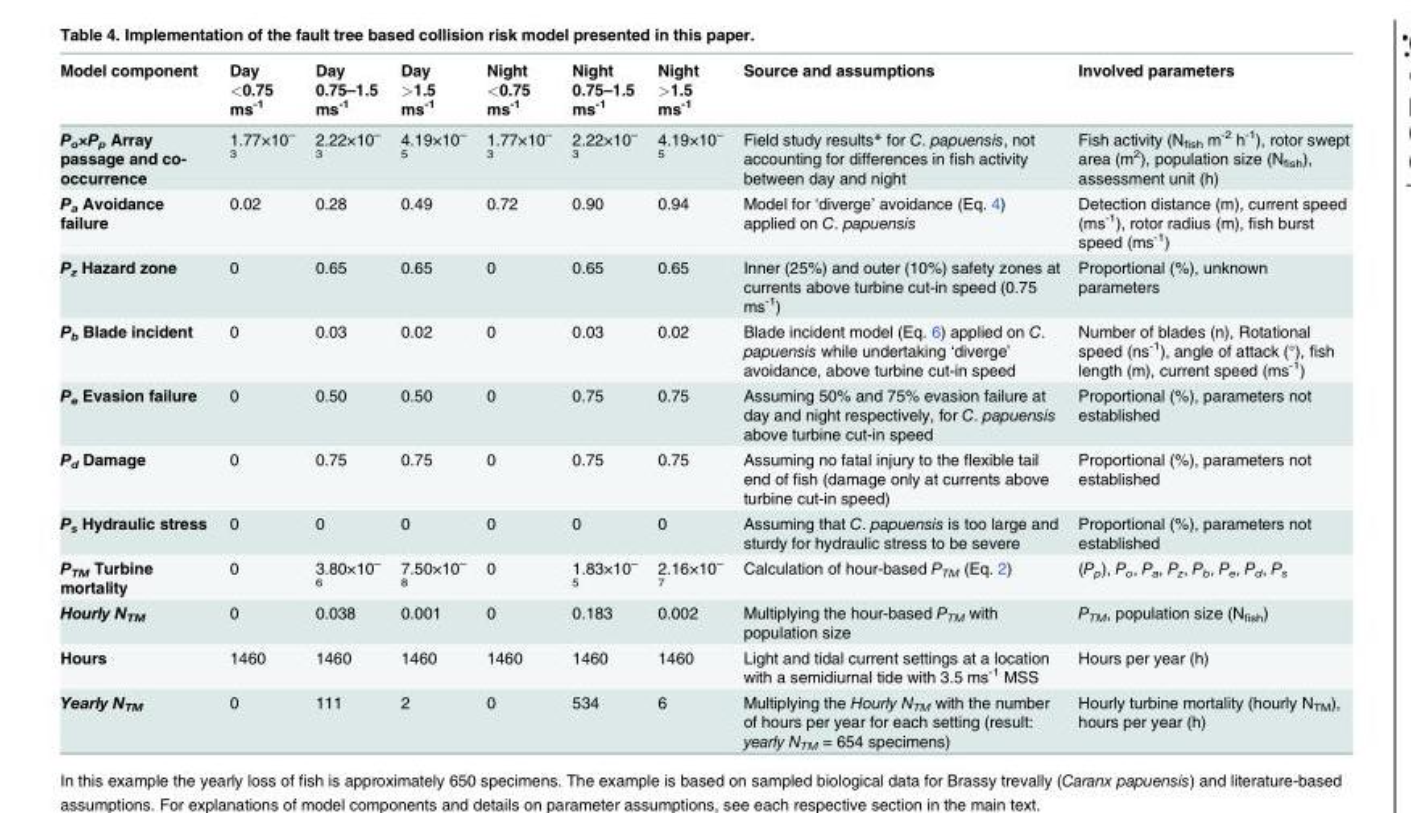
<table><thead><tr><td rowspan="2">Model component</td><td rowspan="2">Day &lt;0.75 ms<sup>-1</sup></td><td rowspan="2">Day 0.75–1.5 ms<sup>-1</sup></td><td rowspan="2">Day &gt;1.5 ms<sup>-1</sup></td><td rowspan="2">Night &lt;0.75 ms<sup>-1</sup></td><td rowspan="2">Night 0.75–1.5 ms<sup>-1</sup></td><td rowspan="2">Night &gt;1.5 ms<sup>-1</sup></td><td rowspan="2">Source and assumptions</td><td rowspan="2">Involved parameters</td></tr><tr></tr></thead><tbody><tr><td>P<sub>o</sub>×P<sub>p</sub> Array passage and co- occurrence</td><td>1.77×10<sup>– 3</sup></td><td>2.22×10<sup>– 3</sup></td><td>4.19×10<sup>– 5</sup></td><td>1.77×10<sup>– 3</sup></td><td>2.22×10<sup>– 3</sup></td><td>4.19×10<sup>– 5</sup></td><td>Field study results* for C. papuensis, not accounting for differences in fish activity between day and night</td><td>Fish activity (N<sub>fish</sub> m<sup>-2</sup> h<sup>-1</sup>), rotor swept area (m<sup>2</sup>), population size (N<sub>fish</sub>), assessment unit (h)</td></tr><tr><td>P<sub>a</sub> Avoidance failure</td><td>0.02</td><td>0.28</td><td>0.49</td><td>0.72</td><td>0.90</td><td>0.94</td><td>Model for ‘diverge’ avoidance (Eq. 4) applied on C. papuensis</td><td>Detection distance (m), current speed (ms<sup>-1</sup>), rotor radius (m), fish burst speed (ms<sup>-1</sup>)</td></tr><tr><td>P<sub>z</sub> Hazard zone</td><td>0</td><td>0.65</td><td>0.65</td><td>0</td><td>0.65</td><td>0.65</td><td>Inner (25%) and outer (10%) safety zones at currents above turbine cut-in speed (0.75 ms<sup>-1</sup>)</td><td>Proportional (%), unknown parameters</td></tr><tr><td>P<sub>b</sub> Blade incident</td><td>0</td><td>0.03</td><td>0.02</td><td>0</td><td>0.03</td><td>0.02</td><td>Blade incident model (Eq. 6) applied on C. papuensis while undertaking ‘diverge’ avoidance, above turbine cut-in speed</td><td>Number of blades (n), Rotational speed (ns<sup>-1</sup>), angle of attack (°), fish length (m), current speed (ms<sup>-1</sup>)</td></tr><tr><td>P<sub>e</sub> Evasion failure</td><td>0</td><td>0.50</td><td>0.50</td><td>0</td><td>0.75</td><td>0.75</td><td>Assuming 50% and 75% evasion failure at day and night respectively, for C. papuensis above turbine cut-in speed</td><td>Proportional (%), parameters not established</td></tr><tr><td>P<sub>d</sub> Damage</td><td>0</td><td>0.75</td><td>0.75</td><td>0</td><td>0.75</td><td>0.75</td><td>Assuming no fatal injury to the flexible tail end of fish (damage only at currents above turbine cut-in speed)</td><td>Proportional (%), parameters not established</td></tr><tr><td>P<sub>s</sub> Hydraulic stress</td><td>0</td><td>0</td><td>0</td><td>0</td><td>0</td><td>0</td><td>Assuming that C. papuensis is too large and sturdy for hydraulic stress to be severe</td><td>Proportional (%), parameters not established</td></tr><tr><td>P<sub>TM</sub> Turbine mortality</td><td>0</td><td>3.80×10<sup>– 6</sup></td><td>7.50×10<sup>– 8</sup></td><td>0</td><td>1.83×10<sup>– 5</sup></td><td>2.16×10<sup>– 7</sup></td><td>Calculation of hour-based P<sub>TM</sub> (Eq. 2)</td><td>(P<sub>p</sub>), P<sub>o</sub>, P<sub>a</sub>, P<sub>z</sub>, P<sub>b</sub>, P<sub>e</sub>, P<sub>d</sub>, P<sub>s</sub></td></tr><tr><td>Hourly N<sub>TM</sub></td><td>0</td><td>0.038</td><td>0.001</td><td>0</td><td>0.183</td><td>0.002</td><td>Multiplying the hour-based P<sub>TM</sub> with population size</td><td>P<sub>TM</sub>, population size (N<sub>fish</sub>)</td></tr><tr><td>Hours</td><td>1460</td><td>1460</td><td>1460</td><td>1460</td><td>1460</td><td>1460</td><td>Light and tidal current settings at a location with a semidiurnal tide with 3.5 ms<sup>-1</sup> MSS</td><td>Hours per year (h)</td></tr><tr><td>Yearly N<sub>TM</sub></td><td>0</td><td>111</td><td>2</td><td>0</td><td>534</td><td>6</td><td>Multiplying the Hourly N<sub>TM</sub> with the number of hours per year for each setting (result: yearly N<sub>TM</sub> = 654 specimens)</td><td>Hourly turbine mortality (hourly N<sub>TM</sub>), hours per year (h)</td></tr></tbody></table>